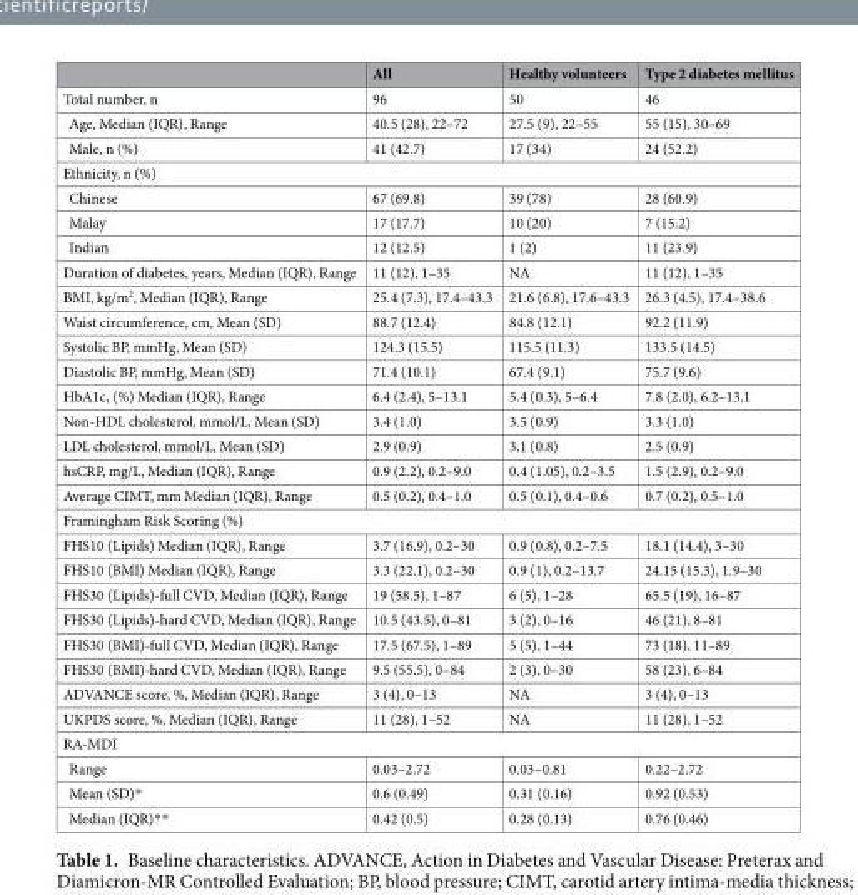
<table><thead><tr><td></td><td>All</td><td>Healthy volunteers</td><td>Type 2 diabetes mellitus</td></tr></thead><tbody><tr><td>Total number, n</td><td>96</td><td>50</td><td>46</td></tr><tr><td>Age, Median (IQR), Range</td><td>40.5 (28), 22–72</td><td>27.5 (9), 22–55</td><td>55 (15), 30–69</td></tr><tr><td>Male, n (%)</td><td>41 (42.7)</td><td>17 (34)</td><td>24 (52.2)</td></tr><tr><td colspan="4">Ethnicity, n (%)</td></tr><tr><td>Chinese</td><td>67 (69.8)</td><td>39 (78)</td><td>28 (60.9)</td></tr><tr><td>Malay</td><td>17 (17.7)</td><td>10 (20)</td><td>7 (15.2)</td></tr><tr><td>Indian</td><td>12 (12.5)</td><td>1 (2)</td><td>11 (23.9)</td></tr><tr><td>Duration of diabetes, years, Median (IQR), Range</td><td>11 (12), 1–35</td><td>NA</td><td>11 (12), 1–35</td></tr><tr><td>BMI, kg/m<sup>2</sup>, Median (IQR), Range</td><td>25.4 (7.3), 17.4–43.3</td><td>21.6 (6.8), 17.6–43.3</td><td>26.3 (4.5), 17.4–38.6</td></tr><tr><td>Waist circumference, cm, Mean (SD)</td><td>88.7 (12.4)</td><td>84.8 (12.1)</td><td>92.2 (11.9)</td></tr><tr><td>Systolic BP, mmHg, Mean (SD)</td><td>124.3 (15.5)</td><td>115.5 (11.3)</td><td>133.5 (14.5)</td></tr><tr><td>Diastolic BP, mmHg, Mean (SD)</td><td>71.4 (10.1)</td><td>67.4 (9.1)</td><td>75.7 (9.6)</td></tr><tr><td>HbA1c, (%) Median (IQR), Range</td><td>6.4 (2.4), 5–13.1</td><td>5.4 (0.3), 5–6.4</td><td>7.8 (2.0), 6.2–13.1</td></tr><tr><td>Non-HDL cholesterol, mmol/L, Mean (SD)</td><td>3.4 (1.0)</td><td>3.5 (0.9)</td><td>3.3 (1.0)</td></tr><tr><td>LDL cholesterol, mmol/L, Mean (SD)</td><td>2.9 (0.9)</td><td>3.1 (0.8)</td><td>2.5 (0.9)</td></tr><tr><td>hsCRP, mg/L, Median (IQR), Range</td><td>0.9 (2.2), 0.2–9.0</td><td>0.4 (1.05), 0.2–3.5</td><td>1.5 (2.9), 0.2–9.0</td></tr><tr><td>Average CIMT, mm Median (IQR), Range</td><td>0.5 (0.2), 0.4–1.0</td><td>0.5 (0.1), 0.4–0.6</td><td>0.7 (0.2), 0.5–1.0</td></tr><tr><td colspan="4">Framingham Risk Scoring (%)</td></tr><tr><td>FHS10 (Lipids) Median (IQR), Range</td><td>3.7 (16.9), 0.2–30</td><td>0.9 (0.8), 0.2–7.5</td><td>18.1 (14.4), 3–30</td></tr><tr><td>FHS10 (BMI) Median (IQR), Range</td><td>3.3 (22.1), 0.2–30</td><td>0.9 (1), 0.2–13.7</td><td>24.15 (15.3), 1.9–30</td></tr><tr><td>FHS30 (Lipids)-full CVD, Median (IQR), Range</td><td>19 (58.5), 1–87</td><td>6 (5), 1–28</td><td>65.5 (19), 16–87</td></tr><tr><td>FHS30 (Lipids)-hard CVD, Median (IQR), Range</td><td>10.5 (43.5), 0–81</td><td>3 (2), 0–16</td><td>46 (21), 8–81</td></tr><tr><td>FHS30 (BMI)-full CVD, Median (IQR), Range</td><td>17.5 (67.5), 1–89</td><td>5 (5), 1–44</td><td>73 (18), 11–89</td></tr><tr><td>FHS30 (BMI)-hard CVD, Median (IQR), Range</td><td>9.5 (55.5), 0–84</td><td>2 (3), 0–30</td><td>58 (23), 6–84</td></tr><tr><td>ADVANCE score, %, Median (IQR), Range</td><td>3 (4), 0–13</td><td>NA</td><td>3 (4), 0–13</td></tr><tr><td>UKPDS score, %, Median (IQR), Range</td><td>11 (28), 1–52</td><td>NA</td><td>11 (28), 1–52</td></tr><tr><td colspan="4">RA-MDI</td></tr><tr><td>Range</td><td>0.03–2.72</td><td>0.03–0.81</td><td>0.22–2.72</td></tr><tr><td>Mean (SD)*</td><td>0.6 (0.49)</td><td>0.31 (0.16)</td><td>0.92 (0.53)</td></tr><tr><td>Median (IQR)**</td><td>0.42 (0.5)</td><td>0.28 (0.13)</td><td>0.76 (0.46)</td></tr></tbody></table>